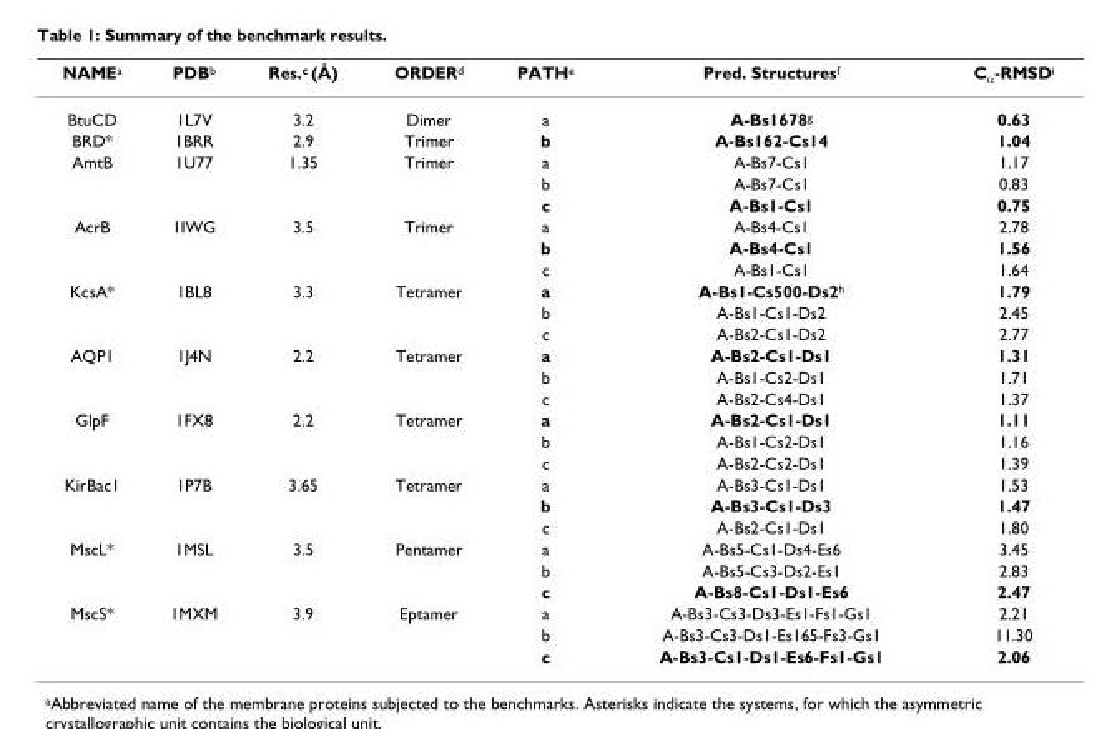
<table><thead><tr><td>NAME<sup>a</sup></td><td>PDB<sup>b</sup></td><td>Res.<sup>c</sup> (Å)</td><td>ORDER<sup>d</sup></td><td>PATH<sup>e</sup></td><td>Pred. Structures<sup>f</sup></td><td>C<sub>α</sub>-RMSD<sup>i</sup></td></tr></thead><tbody><tr><td>BtuCD</td><td>1L7V</td><td>3.2</td><td>Dimer</td><td>a</td><td>A-Bs1678<sup>g</sup></td><td>0.63</td></tr><tr><td>BRD*</td><td>1BRR</td><td>2.9</td><td>Trimer</td><td>b</td><td>A-Bs162-Cs14</td><td>1.04</td></tr><tr><td rowspan="3">AmtB</td><td>1U77</td><td>1.35</td><td>Trimer</td><td>a</td><td>A-Bs7-Cs1</td><td>1.17</td></tr><tr><td></td><td></td><td></td><td>b</td><td>A-Bs7-Cs1</td><td>0.83</td></tr><tr><td></td><td></td><td></td><td>c</td><td>A-Bs1-Cs1</td><td>0.75</td></tr><tr><td rowspan="3">AcrB</td><td>1IWG</td><td>3.5</td><td>Trimer</td><td>a</td><td>A-Bs4-Cs1</td><td>2.78</td></tr><tr><td></td><td></td><td></td><td>b</td><td>A-Bs4-Cs1</td><td>1.56</td></tr><tr><td></td><td></td><td></td><td>c</td><td>A-Bs1-Cs1</td><td>1.64</td></tr><tr><td rowspan="3">KcsA*</td><td>1BL8</td><td>3.3</td><td>Tetramer</td><td>a</td><td>A-Bs1-Cs500-Ds2<sup>h</sup></td><td>1.79</td></tr><tr><td></td><td></td><td></td><td>b</td><td>A-Bs1-Cs1-Ds2</td><td>2.45</td></tr><tr><td></td><td></td><td></td><td>c</td><td>A-Bs2-Cs1-Ds2</td><td>2.77</td></tr><tr><td rowspan="3">AQP1</td><td>1J4N</td><td>2.2</td><td>Tetramer</td><td>a</td><td>A-Bs2-Cs1-Ds1</td><td>1.31</td></tr><tr><td></td><td></td><td></td><td>b</td><td>A-Bs1-Cs2-Ds1</td><td>1.71</td></tr><tr><td></td><td></td><td></td><td>c</td><td>A-Bs2-Cs4-Ds1</td><td>1.37</td></tr><tr><td rowspan="3">GlpF</td><td>1FX8</td><td>2.2</td><td>Tetramer</td><td>a</td><td>A-Bs2-Cs1-Ds1</td><td>1.11</td></tr><tr><td></td><td></td><td></td><td>b</td><td>A-Bs1-Cs2-Ds1</td><td>1.16</td></tr><tr><td></td><td></td><td></td><td>c</td><td>A-Bs2-Cs2-Ds1</td><td>1.39</td></tr><tr><td rowspan="3">KirBac1</td><td>1P7B</td><td>3.65</td><td>Tetramer</td><td>a</td><td>A-Bs3-Cs1-Ds1</td><td>1.53</td></tr><tr><td></td><td></td><td></td><td>b</td><td>A-Bs3-Cs1-Ds3</td><td>1.47</td></tr><tr><td></td><td></td><td></td><td>c</td><td>A-Bs2-Cs1-Ds1</td><td>1.80</td></tr><tr><td rowspan="3">MscL*</td><td>1MSL</td><td>3.5</td><td>Pentamer</td><td>a</td><td>A-Bs5-Cs1-Ds4-Es6</td><td>3.45</td></tr><tr><td></td><td></td><td></td><td>b</td><td>A-Bs5-Cs3-Ds2-Es1</td><td>2.83</td></tr><tr><td></td><td></td><td></td><td>c</td><td>A-Bs8-Cs1-Ds1-Es6</td><td>2.47</td></tr><tr><td rowspan="3">MscS*</td><td>1MXM</td><td>3.9</td><td>Eptamer</td><td>a</td><td>A-Bs3-Cs3-Ds3-Es1-Fs1-Gs1</td><td>2.21</td></tr><tr><td></td><td></td><td></td><td>b</td><td>A-Bs3-Cs3-Ds1-Es165-Fs3-Gs1</td><td>11.30</td></tr><tr><td></td><td></td><td></td><td>c</td><td>A-Bs3-Cs1-Ds1-Es6-Fs1-Gs1</td><td>2.06</td></tr></tbody></table>